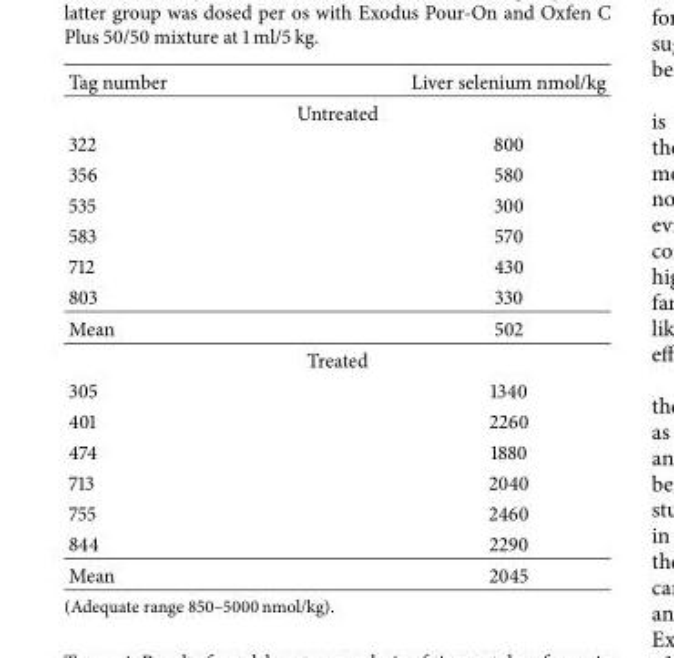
<table><thead><tr><td>Tag number</td><td>Liver selenium nmol/kg</td></tr></thead><tbody><tr><td colspan="2">Untreated</td></tr><tr><td>322</td><td>800</td></tr><tr><td>356</td><td>580</td></tr><tr><td>535</td><td>300</td></tr><tr><td>583</td><td>570</td></tr><tr><td>712</td><td>430</td></tr><tr><td>803</td><td>330</td></tr><tr><td>Mean</td><td>502</td></tr><tr><td colspan="2">Treated</td></tr><tr><td>305</td><td>1340</td></tr><tr><td>401</td><td>2260</td></tr><tr><td>474</td><td>1880</td></tr><tr><td>713</td><td>2040</td></tr><tr><td>755</td><td>2460</td></tr><tr><td>844</td><td>2290</td></tr><tr><td>Mean</td><td>2045</td></tr></tbody></table>